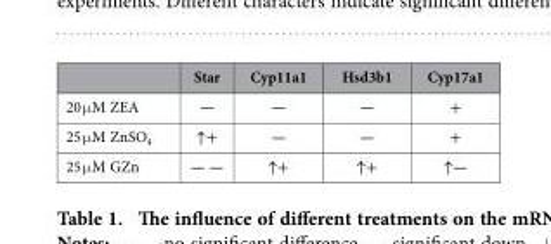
<table><thead><tr><td></td><td>Star</td><td>Cyp11a1</td><td>Hsd3b1</td><td>Cyp17a1</td></tr></thead><tbody><tr><td>20 μ M ZEA</td><td>—</td><td>—</td><td>—</td><td>+</td></tr><tr><td>25 μ M ZnSO<sub>4</sub></td><td>↑+</td><td>—</td><td>—</td><td>+</td></tr><tr><td>25 μ M GZn</td><td>— —</td><td>↑+</td><td>↑+</td><td>↑—</td></tr></tbody></table>